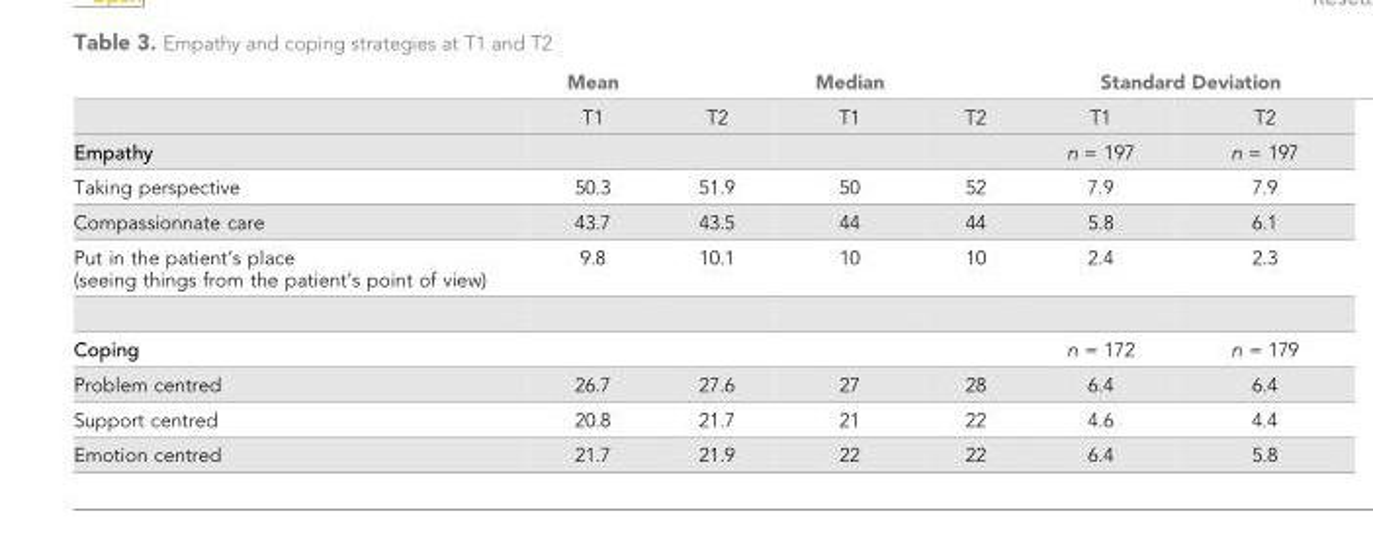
<table><thead><tr><td rowspan="2"></td><td rowspan="2">Mean T1</td><td rowspan="2">T2</td><td rowspan="2">Median T1</td><td rowspan="2">T2</td><td colspan="2">Standard Deviation</td></tr><tr><td>T1</td><td>T2</td></tr></thead><tbody><tr><td>Empathy</td><td></td><td></td><td></td><td></td><td>n = 197</td><td>n = 197</td></tr><tr><td>Taking perspective</td><td>50.3</td><td>51.9</td><td>50</td><td>52</td><td>7.9</td><td>7.9</td></tr><tr><td>Compassionnate care</td><td>43.7</td><td>43.5</td><td>44</td><td>44</td><td>5.8</td><td>6.1</td></tr><tr><td>Put in the patient’s place (seeing things from the patient’s point of view)</td><td>9.8</td><td>10.1</td><td>10</td><td>10</td><td>2.4</td><td>2.3</td></tr><tr><td>Coping</td><td></td><td></td><td></td><td></td><td>n = 172</td><td>n = 179</td></tr><tr><td>Problem centred</td><td>26.7</td><td>27.6</td><td>27</td><td>28</td><td>6.4</td><td>6.4</td></tr><tr><td>Support centred</td><td>20.8</td><td>21.7</td><td>21</td><td>22</td><td>4.6</td><td>4.4</td></tr><tr><td>Emotion centred</td><td>21.7</td><td>21.9</td><td>22</td><td>22</td><td>6.4</td><td>5.8</td></tr></tbody></table>